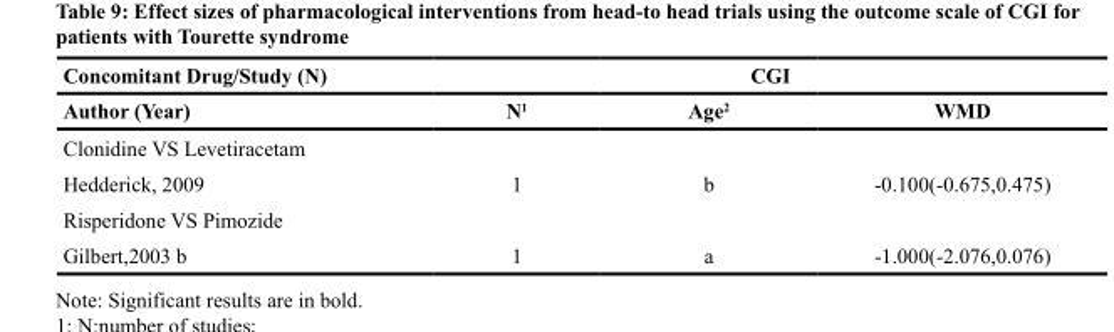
<table><thead><tr><td rowspan="2">Concomitant Drug/Study (N) Author (Year)</td><td colspan="3">CGI</td></tr><tr><td>N<sup>1</sup></td><td>Age<sup>2</sup></td><td>WMD</td></tr></thead><tbody><tr><td colspan="4">Clonidine VS Levetiracetam</td></tr><tr><td>Hedderick, 2009</td><td>1</td><td>b</td><td>-0.100(-0.675,0.475)</td></tr><tr><td colspan="4">Risperidone VS Pimozide</td></tr><tr><td>Gilbert,2003 b</td><td>1</td><td>a</td><td>-1.000(-2.076,0.076)</td></tr></tbody></table>